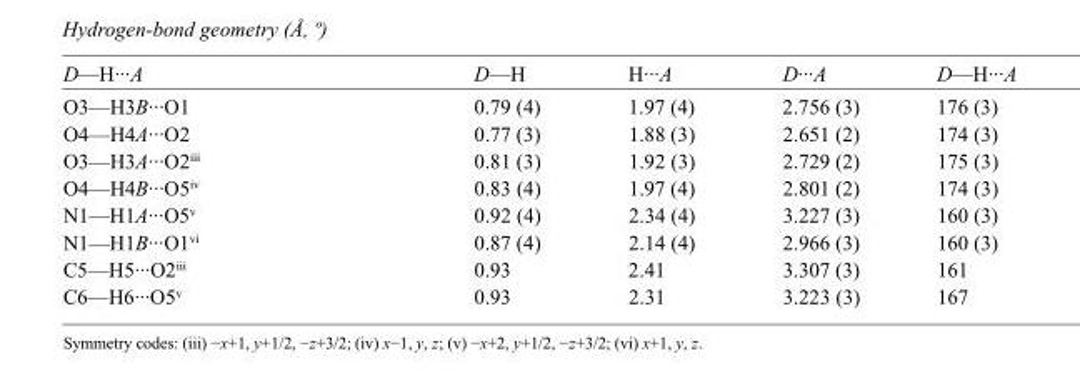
<table><tbody><tr><td>D—H···A</td><td>D—H</td><td>H···A</td><td>D···A</td><td>D—H···A</td></tr><tr><td>O3—H3B···O1</td><td>0.79 (4)</td><td>1.97 (4)</td><td>2.756 (3)</td><td>176 (3)</td></tr><tr><td>O4—H4A···O2</td><td>0.77 (3)</td><td>1.88 (3)</td><td>2.651 (2)</td><td>174 (3)</td></tr><tr><td>O3—H3A···O2<sup>iii</sup></td><td>0.81 (3)</td><td>1.92 (3)</td><td>2.729 (2)</td><td>175 (3)</td></tr><tr><td>O4—H4B···O5<sup>iv</sup></td><td>0.83 (4)</td><td>1.97 (4)</td><td>2.801 (2)</td><td>174 (3)</td></tr><tr><td>N1—H1A···O5<sup>v</sup></td><td>0.92 (4)</td><td>2.34 (4)</td><td>3.227 (3)</td><td>160 (3)</td></tr><tr><td>N1—H1B···O1<sup>vi</sup></td><td>0.87 (4)</td><td>2.14 (4)</td><td>2.966 (3)</td><td>160 (3)</td></tr><tr><td>C5—H5···O2<sup>iii</sup></td><td>0.93</td><td>2.41</td><td>3.307 (3)</td><td>161</td></tr><tr><td>C6—H6···O5<sup>v</sup></td><td>0.93</td><td>2.31</td><td>3.223 (3)</td><td>167</td></tr></tbody></table>